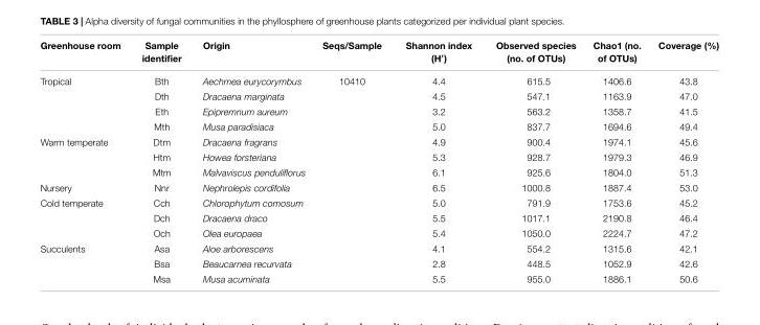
<table><thead><tr><td>Greenhouse room</td><td>Sample identifier</td><td>Origin</td><td>Seqs/Sample</td><td>Shannon index (H′)</td><td>Observed species (no. of OTUs)</td><td>Chao1 (no. of OTUs)</td><td>Coverage (%)</td></tr></thead><tbody><tr><td rowspan="4">Tropical</td><td>Bth</td><td>Aechmea eurycorymbus</td><td>10410</td><td>4.4</td><td>615.5</td><td>1406.6</td><td>43.8</td></tr><tr><td>Dth</td><td>Dracaena marginata</td><td></td><td>4.5</td><td>547.1</td><td>1163.9</td><td>47.0</td></tr><tr><td>Eth</td><td>Epipremnum aureum</td><td></td><td>3.2</td><td>563.2</td><td>1358.7</td><td>41.5</td></tr><tr><td>Mth</td><td>Musa paradisiaca</td><td></td><td>5.0</td><td>837.7</td><td>1694.6</td><td>49.4</td></tr><tr><td rowspan="3">Warm temperate</td><td>Dtm</td><td>Dracaena fragrans</td><td></td><td>4.9</td><td>900.4</td><td>1974.1</td><td>45.6</td></tr><tr><td>Htm</td><td>Howea forsteriana</td><td></td><td>5.3</td><td>928.7</td><td>1979.3</td><td>46.9</td></tr><tr><td>Mtm</td><td>Malvaviscus penduliflorus</td><td></td><td>6.1</td><td>925.6</td><td>1804.0</td><td>51.3</td></tr><tr><td>Nursery</td><td>Nnr</td><td>Nephrolepis cordifolia</td><td></td><td>6.5</td><td>1000.8</td><td>1887.4</td><td>53.0</td></tr><tr><td rowspan="3">Cold temperate</td><td>Cch</td><td>Chlorophytum comosum</td><td></td><td>5.0</td><td>791.9</td><td>1753.6</td><td>45.2</td></tr><tr><td>Dch</td><td>Dracaena draco</td><td></td><td>5.5</td><td>1017.1</td><td>2190.8</td><td>46.4</td></tr><tr><td>Och</td><td>Olea europaea</td><td></td><td>5.4</td><td>1050.0</td><td>2224.7</td><td>47.2</td></tr><tr><td rowspan="3">Succulents</td><td>Asa</td><td>Aloe arborescens</td><td></td><td>4.1</td><td>554.2</td><td>1315.6</td><td>42.1</td></tr><tr><td>Bsa</td><td>Beaucarnea recurvata</td><td></td><td>2.8</td><td>448.5</td><td>1052.9</td><td>42.6</td></tr><tr><td>Msa</td><td>Musa acuminata</td><td></td><td>5.5</td><td>955.0</td><td>1886.1</td><td>50.6</td></tr></tbody></table>